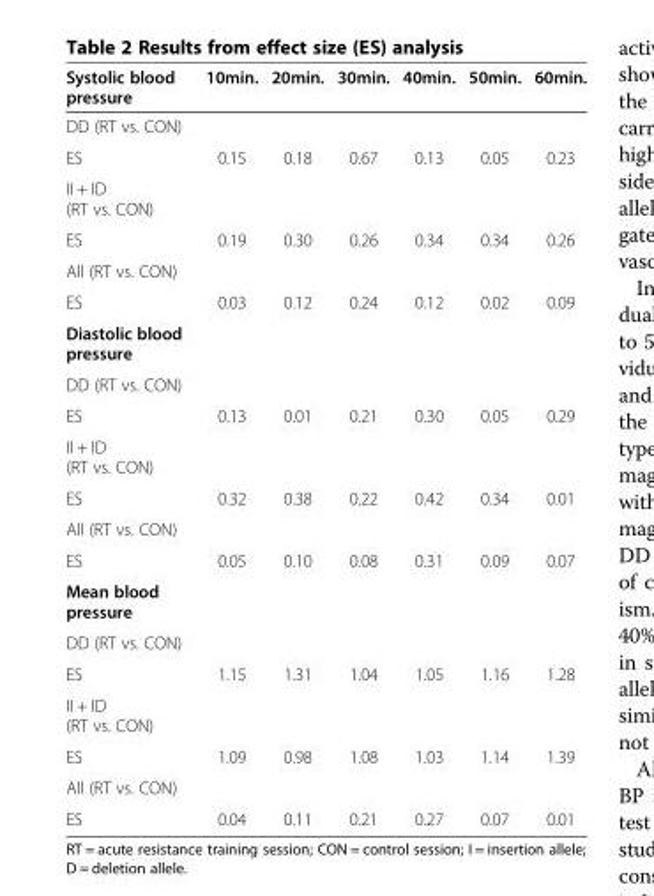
<table><thead><tr><td>Systolic blood pressure</td><td>10min.</td><td>20min.</td><td>30min.</td><td>40min.</td><td>50min.</td><td>60min.</td></tr></thead><tbody><tr><td colspan="7">DD (RT vs. CON)</td></tr><tr><td>ES</td><td>0.15</td><td>0.18</td><td>0.67</td><td>0.13</td><td>0.05</td><td>0.23</td></tr><tr><td colspan="7">II + ID (RT vs. CON)</td></tr><tr><td>ES</td><td>0.19</td><td>0.30</td><td>0.26</td><td>0.34</td><td>0.34</td><td>0.26</td></tr><tr><td colspan="7">All (RT vs. CON)</td></tr><tr><td>ES</td><td>0.03</td><td>0.12</td><td>0.24</td><td>0.12</td><td>0.02</td><td>0.09</td></tr><tr><td colspan="7">Diastolic blood pressure</td></tr><tr><td colspan="7">DD (RT vs. CON)</td></tr><tr><td>ES</td><td>0.13</td><td>0.01</td><td>0.21</td><td>0.30</td><td>0.05</td><td>0.29</td></tr><tr><td colspan="7">II + ID (RT vs. CON)</td></tr><tr><td>ES</td><td>0.32</td><td>0.38</td><td>0.22</td><td>0.42</td><td>0.34</td><td>0.01</td></tr><tr><td colspan="7">All (RT vs. CON)</td></tr><tr><td>ES</td><td>0.05</td><td>0.10</td><td>0.08</td><td>0.31</td><td>0.09</td><td>0.07</td></tr><tr><td colspan="7">Mean blood pressure</td></tr><tr><td colspan="7">DD (RT vs. CON)</td></tr><tr><td>ES</td><td>1.15</td><td>1.31</td><td>1.04</td><td>1.05</td><td>1.16</td><td>1.28</td></tr><tr><td colspan="7">II + ID (RT vs. CON)</td></tr><tr><td>ES</td><td>1.09</td><td>0.98</td><td>1.08</td><td>1.03</td><td>1.14</td><td>1.39</td></tr><tr><td colspan="7">All (RT vs. CON)</td></tr><tr><td>ES</td><td>0.04</td><td>0.11</td><td>0.21</td><td>0.27</td><td>0.07</td><td>0.01</td></tr></tbody></table>